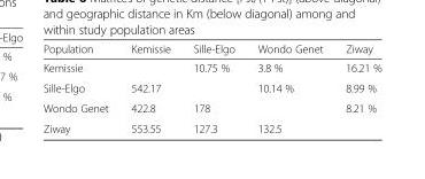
<table><thead><tr><td>Population</td><td>Kemissie</td><td>Sille-Elgo</td><td>Wondo Genet</td><td>Ziway</td></tr></thead><tbody><tr><td>Kemissie</td><td></td><td>10.75 %</td><td>3.8 %</td><td>16.21 %</td></tr><tr><td>Sille-Elgo</td><td>542.17</td><td></td><td>10.14 %</td><td>8.99 %</td></tr><tr><td>Wondo Genet</td><td>422.8</td><td>178</td><td></td><td>8.21 %</td></tr><tr><td>Ziway</td><td>553.55</td><td>127.3</td><td>132.5</td><td></td></tr></tbody></table>